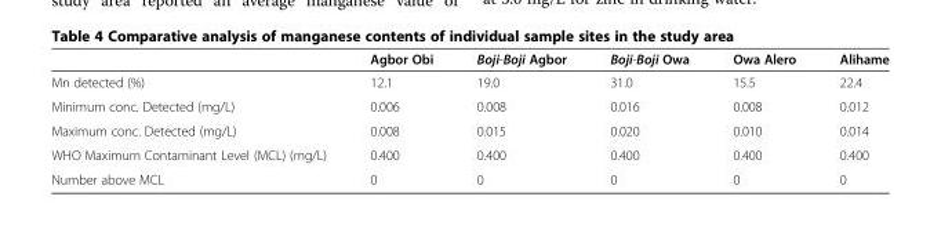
<table><thead><tr><td></td><td>Agbor Obi</td><td>Boji-Boji Agbor</td><td>Boji-Boji Owa</td><td>Owa Alero</td><td>Alihame</td></tr></thead><tbody><tr><td>Mn detected (%)</td><td>12.1</td><td>19.0</td><td>31.0</td><td>15.5</td><td>22.4</td></tr><tr><td>Minimum conc. Detected (mg/L)</td><td>0.006</td><td>0.008</td><td>0.016</td><td>0.008</td><td>0.012</td></tr><tr><td>Maximum conc. Detected (mg/L)</td><td>0.008</td><td>0.015</td><td>0.020</td><td>0.010</td><td>0.014</td></tr><tr><td>WHO Maximum Contaminant Level (MCL) (mg/L)</td><td>0.400</td><td>0.400</td><td>0.400</td><td>0.400</td><td>0.400</td></tr><tr><td>Number above MCL</td><td>0</td><td>0</td><td>0</td><td>0</td><td>0</td></tr></tbody></table>